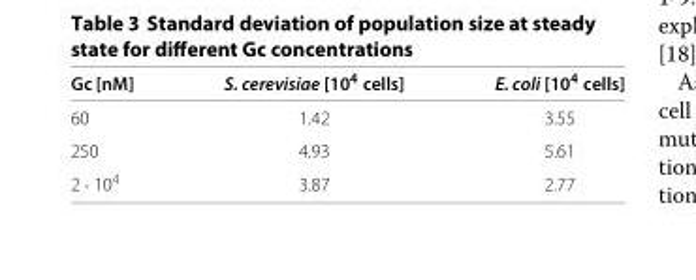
<table><thead><tr><td>Gc [nM]</td><td>S. cerevisiae [10<sup>4</sup> cells]</td><td>E. coli [10<sup>4</sup> cells]</td></tr></thead><tbody><tr><td>60</td><td>1.42</td><td>3.55</td></tr><tr><td>250</td><td>4.93</td><td>5.61</td></tr><tr><td>2 · 10<sup>4</sup></td><td>3.87</td><td>2.77</td></tr></tbody></table>